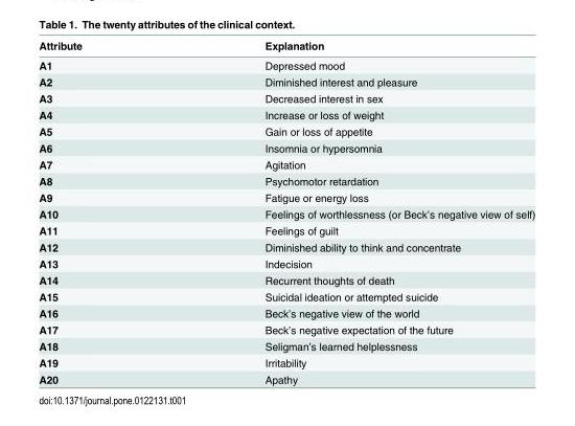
<table><thead><tr><td>Attribute</td><td>Explanation</td></tr></thead><tbody><tr><td>A1</td><td>Depressed mood</td></tr><tr><td>A2</td><td>Diminished interest and pleasure</td></tr><tr><td>A3</td><td>Decreased interest in sex</td></tr><tr><td>A4</td><td>Increase or loss of weight</td></tr><tr><td>A5</td><td>Gain or loss of appetite</td></tr><tr><td>A6</td><td>Insomnia or hypersomnia</td></tr><tr><td>A7</td><td>Agitation</td></tr><tr><td>A8</td><td>Psychomotor retardation</td></tr><tr><td>A9</td><td>Fatigue or energy loss</td></tr><tr><td>A10</td><td>Feelings of worthlessness (or Beck’s negative view of self)</td></tr><tr><td>A11</td><td>Feelings of guilt</td></tr><tr><td>A12</td><td>Diminished ability to think and concentrate</td></tr><tr><td>A13</td><td>Indecision</td></tr><tr><td>A14</td><td>Recurrent thoughts of death</td></tr><tr><td>A15</td><td>Suicidal ideation or attempted suicide</td></tr><tr><td>A16</td><td>Beck’s negative view of the world</td></tr><tr><td>A17</td><td>Beck’s negative expectation of the future</td></tr><tr><td>A18</td><td>Seligman’s learned helplessness</td></tr><tr><td>A19</td><td>Irritability</td></tr><tr><td>A20</td><td>Apathy</td></tr></tbody></table>